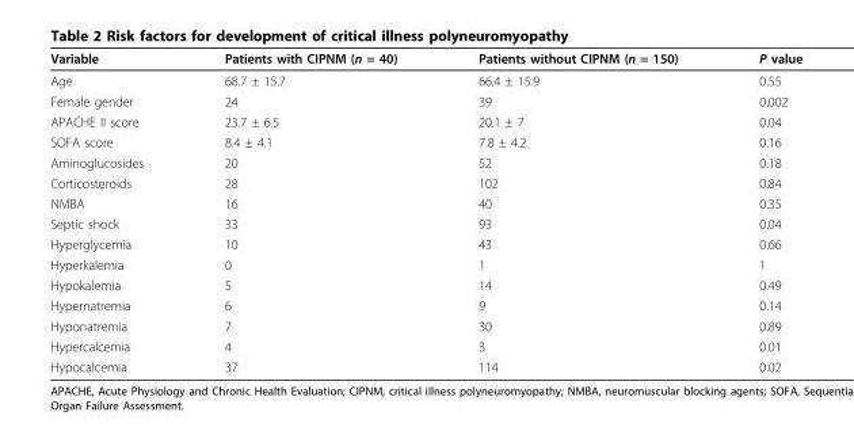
<table><thead><tr><td>Variable</td><td>Patients with CIPNM (n = 40)</td><td>Patients without CIPNM (n = 150)</td><td>P value</td></tr></thead><tbody><tr><td>Age</td><td>68.7 ± 15.7</td><td>66.4 ± 15.9</td><td>0.55</td></tr><tr><td>Female gender</td><td>24</td><td>39</td><td>0.002</td></tr><tr><td>APACHE II score</td><td>23.7 ± 6.5</td><td>20.1 ± 7</td><td>0.04</td></tr><tr><td>SOFA score</td><td>8.4 ± 4.1</td><td>7.8 ± 4.2</td><td>0.16</td></tr><tr><td>Aminoglucosides</td><td>20</td><td>52</td><td>0.18</td></tr><tr><td>Corticosteroids</td><td>28</td><td>102</td><td>0.84</td></tr><tr><td>NMBA</td><td>16</td><td>40</td><td>0.35</td></tr><tr><td>Septic shock</td><td>33</td><td>93</td><td>0.04</td></tr><tr><td>Hyperglycemia</td><td>10</td><td>43</td><td>0.66</td></tr><tr><td>Hyperkalemia</td><td>0</td><td>1</td><td>1</td></tr><tr><td>Hypokalemia</td><td>5</td><td>14</td><td>0.49</td></tr><tr><td>Hypernatremia</td><td>6</td><td>9</td><td>0.14</td></tr><tr><td>Hyponatremia</td><td>7</td><td>30</td><td>0.89</td></tr><tr><td>Hypercalcemia</td><td>4</td><td>3</td><td>0.01</td></tr><tr><td>Hypocalcemia</td><td>37</td><td>114</td><td>0.02</td></tr></tbody></table>